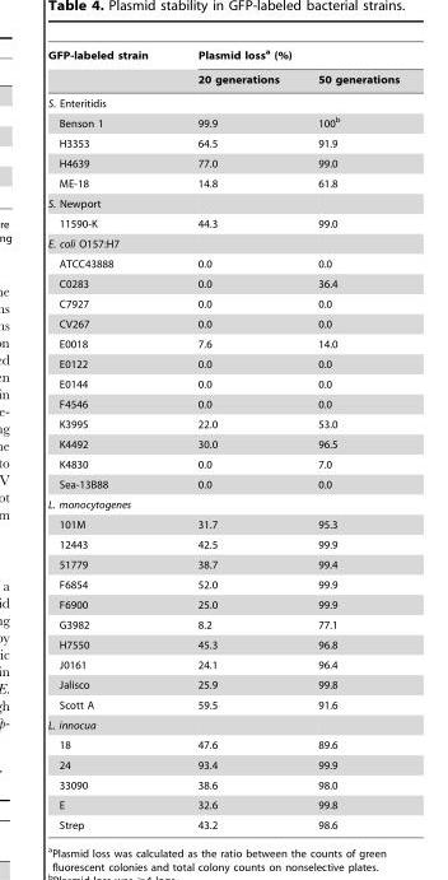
<table><thead><tr><td rowspan="2">GFP-labeled strain</td><td colspan="2">Plasmid loss<sup>a</sup> (%)</td></tr><tr><td>20 generations</td><td>50 generations</td></tr></thead><tbody><tr><td colspan="3">S. Enteritidis</td></tr><tr><td>Benson 1</td><td>99.9</td><td>100<sup>b</sup></td></tr><tr><td>H3353</td><td>64.5</td><td>91.9</td></tr><tr><td>H4639</td><td>77.0</td><td>99.0</td></tr><tr><td>ME-18</td><td>14.8</td><td>61.8</td></tr><tr><td colspan="3">S. Newport</td></tr><tr><td>11590-K</td><td>44.3</td><td>99.0</td></tr><tr><td colspan="3">E. coli O157:H7</td></tr><tr><td>ATCC43888</td><td>0.0</td><td>0.0</td></tr><tr><td>C0283</td><td>0.0</td><td>36.4</td></tr><tr><td>C7927</td><td>0.0</td><td>0.0</td></tr><tr><td>CV267</td><td>0.0</td><td>0.0</td></tr><tr><td>E0018</td><td>7.6</td><td>14.0</td></tr><tr><td>E0122</td><td>0.0</td><td>0.0</td></tr><tr><td>E0144</td><td>0.0</td><td>0.0</td></tr><tr><td>F4546</td><td>0.0</td><td>0.0</td></tr><tr><td>K3995</td><td>22.0</td><td>53.0</td></tr><tr><td>K4492</td><td>30.0</td><td>96.5</td></tr><tr><td>K4830</td><td>0.0</td><td>7.0</td></tr><tr><td>Sea-13B88</td><td>0.0</td><td>0.0</td></tr><tr><td colspan="3">L. monocytogenes</td></tr><tr><td>101M</td><td>31.7</td><td>95.3</td></tr><tr><td>12443</td><td>42.5</td><td>99.9</td></tr><tr><td>51779</td><td>38.7</td><td>99.4</td></tr><tr><td>F6854</td><td>52.0</td><td>99.9</td></tr><tr><td>F6900</td><td>25.0</td><td>99.9</td></tr><tr><td>G3982</td><td>8.2</td><td>77.1</td></tr><tr><td>H7550</td><td>45.3</td><td>96.8</td></tr><tr><td>J0161</td><td>24.1</td><td>96.4</td></tr><tr><td>Jalisco</td><td>25.9</td><td>99.8</td></tr><tr><td>Scott A</td><td>59.5</td><td>91.6</td></tr><tr><td colspan="3">L. innocua</td></tr><tr><td>18</td><td>47.6</td><td>89.6</td></tr><tr><td>24</td><td>93.4</td><td>99.9</td></tr><tr><td>33090</td><td>38.6</td><td>98.0</td></tr><tr><td>E</td><td>32.6</td><td>99.8</td></tr><tr><td>Strep</td><td>43.2</td><td>98.6</td></tr></tbody></table>